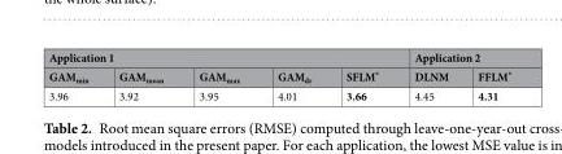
<table><thead><tr><td colspan="5">Application 1</td><td colspan="2">Application 2</td></tr><tr><td>GAM<sub>min</sub></td><td>GAM<sub>mean</sub></td><td>GAM<sub>max</sub></td><td>GAM<sub>dr</sub></td><td>SFLM*</td><td>DLNM</td><td>FFLM*</td></tr></thead><tbody><tr><td>3.96</td><td>3.92</td><td>3.95</td><td>4.01</td><td>3.66</td><td>4.45</td><td>4.31</td></tr></tbody></table>